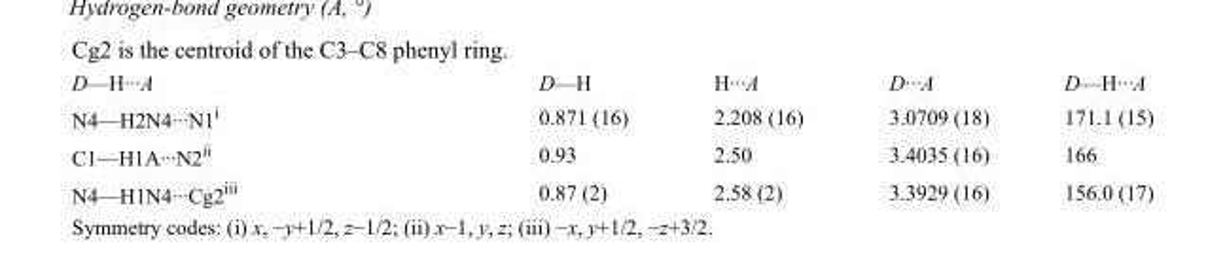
<table><tbody><tr><td>D—H···A</td><td>D—H</td><td>H···A</td><td>D···A</td><td>D—H···A</td></tr><tr><td>N4—H2N4···N1<sup>i</sup></td><td>0.871 (16)</td><td>2.208 (16)</td><td>3.0709 (18)</td><td>171.1 (15)</td></tr><tr><td>C1—H1A···N2<sup>ii</sup></td><td>0.93</td><td>2.50</td><td>3.4035 (16)</td><td>166</td></tr><tr><td>N4—H1N4···Cg2<sup>iii</sup></td><td>0.87 (2)</td><td>2.58 (2)</td><td>3.3929 (16)</td><td>156.0 (17)</td></tr></tbody></table>